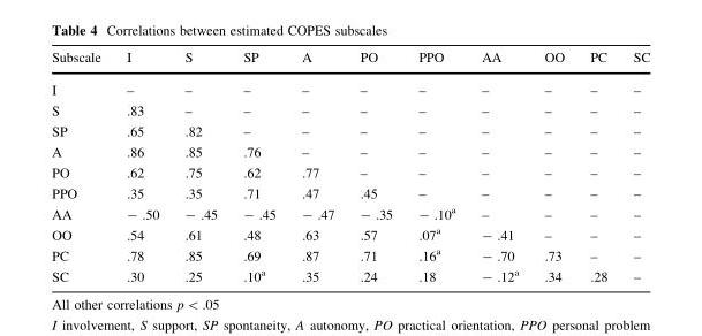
<table><thead><tr><td>Subscale</td><td>I</td><td>S</td><td>SP</td><td>A</td><td>PO</td><td>PPO</td><td>AA</td><td>OO</td><td>PC</td><td>SC</td></tr></thead><tbody><tr><td>I</td><td>–</td><td>–</td><td>–</td><td>–</td><td>–</td><td>–</td><td>–</td><td>–</td><td>–</td><td>–</td></tr><tr><td>S</td><td>.83</td><td>–</td><td>–</td><td>–</td><td>–</td><td>–</td><td>–</td><td>–</td><td>–</td><td>–</td></tr><tr><td>SP</td><td>.65</td><td>.82</td><td>–</td><td>–</td><td>–</td><td>–</td><td>–</td><td>–</td><td>–</td><td>–</td></tr><tr><td>A</td><td>.86</td><td>.85</td><td>.76</td><td>–</td><td>–</td><td>–</td><td>–</td><td>–</td><td>–</td><td>–</td></tr><tr><td>PO</td><td>.62</td><td>.75</td><td>.62</td><td>.77</td><td>–</td><td>–</td><td>–</td><td>–</td><td>–</td><td>–</td></tr><tr><td>PPO</td><td>.35</td><td>.35</td><td>.71</td><td>.47</td><td>.45</td><td>–</td><td>–</td><td>–</td><td>–</td><td>–</td></tr><tr><td>AA</td><td>- .50</td><td>- .45</td><td>- .45</td><td>- .47</td><td>- .35</td><td>- .10<sup>a</sup></td><td>–</td><td>–</td><td>–</td><td>–</td></tr><tr><td>OO</td><td>.54</td><td>.61</td><td>.48</td><td>.63</td><td>.57</td><td>.07<sup>a</sup></td><td>- .41</td><td>–</td><td>–</td><td>–</td></tr><tr><td>PC</td><td>.78</td><td>.85</td><td>.69</td><td>.87</td><td>.71</td><td>.16<sup>a</sup></td><td>- .70</td><td>.73</td><td>–</td><td>–</td></tr><tr><td>SC</td><td>.30</td><td>.25</td><td>.10<sup>a</sup></td><td>.35</td><td>.24</td><td>.18</td><td>- .12<sup>a</sup></td><td>.34</td><td>.28</td><td>–</td></tr></tbody></table>